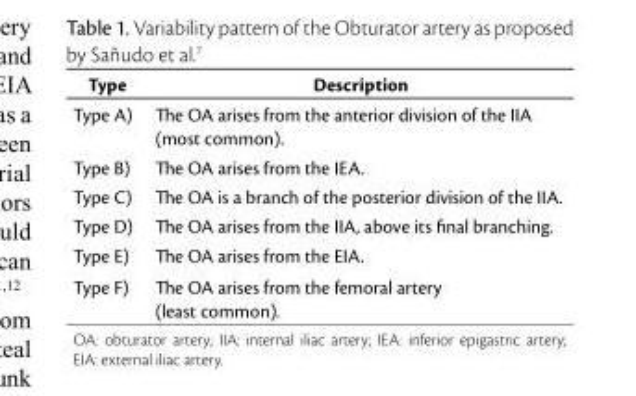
<table><thead><tr><td>type</td><td>Description</td></tr></thead><tbody><tr><td>Type A)</td><td>The OA arises from the anterior division of the IIA (most common).</td></tr><tr><td>Type B)</td><td>The OA arises from the IEA.</td></tr><tr><td>Type C)</td><td>The OA is a branch of the posterior division of the IIA.</td></tr><tr><td>Type D)</td><td>The OA arises from the IIA, above its final branching.</td></tr><tr><td>Type E)</td><td>The OA arises from the EIA.</td></tr><tr><td>Type F)</td><td>The OA arises from the femoral artery (least common).</td></tr></tbody></table>